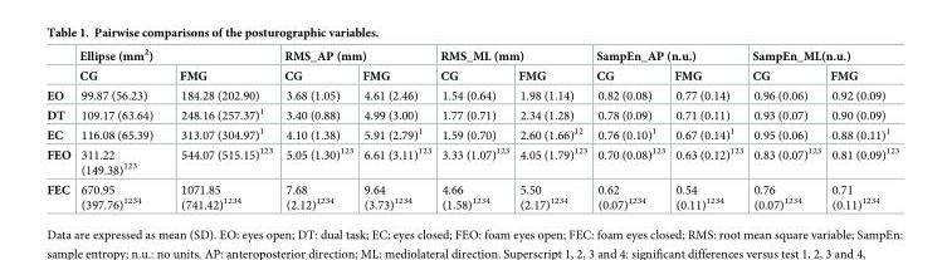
<table><thead><tr><td rowspan="2"></td><td colspan="2">Ellipse (mm<sup>2</sup>)</td><td colspan="2">RMS_AP (mm)</td><td colspan="2">RMS_ML (mm)</td><td colspan="2">SampEn_AP (n.u.)</td><td colspan="2">SampEn_ML(n.u.)</td></tr><tr><td>CG</td><td>FMG</td><td>CG</td><td>FMG</td><td>CG</td><td>FMG</td><td>CG</td><td>FMG</td><td>CG</td><td>FMG</td></tr></thead><tbody><tr><td>EO</td><td>99.87 (56.23)</td><td>184.28 (202.90)</td><td>3.68 (1.05)</td><td>4.61 (2.46)</td><td>1.54 (0.64)</td><td>1.98 (1.14)</td><td>0.82 (0.08)</td><td>0.77 (0.14)</td><td>0.96 (0.06)</td><td>0.92 (0.09)</td></tr><tr><td>DT</td><td>109.17 (63.64)</td><td>248.16 (257.37)<sup>1</sup></td><td>3.40 (0.88)</td><td>4.99 (3.00)</td><td>1.77 (0.71)</td><td>2.34 (1.28)</td><td>0.78 (0.09)</td><td>0.71 (0.11)</td><td>0.93 (0.07)</td><td>0.90 (0.09)</td></tr><tr><td>EC</td><td>116.08 (65.39)</td><td>313.07 (304.97)<sup>1</sup></td><td>4.10 (1.38)</td><td>5.91 (2.79)<sup>1</sup></td><td>1.59 (0.70)</td><td>2.60 (1.66)<sup>12</sup></td><td>0.76 (0.10)<sup>1</sup></td><td>0.67 (0.14)<sup>1</sup></td><td>0.95 (0.06)</td><td>0.88 (0.11)<sup>1</sup></td></tr><tr><td>FEO</td><td>311.22 (149.38)<sup>123</sup></td><td>544.07 (515.15)<sup>123</sup></td><td>5.05 (1.30)<sup>123</sup></td><td>6.61 (3.11)<sup>123</sup></td><td>3.33 (1.07)<sup>123</sup></td><td>4.05 (1.79)<sup>123</sup></td><td>0.70 (0.08)<sup>123</sup></td><td>0.63 (0.12)<sup>123</sup></td><td>0.83 (0.07)<sup>123</sup></td><td>0.81 (0.09)<sup>123</sup></td></tr><tr><td>FEC</td><td>670.95 (397.76)<sup>1234</sup></td><td>1071.85 (741.42)<sup>1234</sup></td><td>7.68 (2.12)<sup>1234</sup></td><td>9.64 (3.73)<sup>1234</sup></td><td>4.66 (1.58)<sup>1234</sup></td><td>5.50 (2.17)<sup>1234</sup></td><td>0.62 (0.07)<sup>1234</sup></td><td>0.54 (0.11)<sup>1234</sup></td><td>0.76 (0.07)<sup>1234</sup></td><td>0.71 (0.11)<sup>1234</sup></td></tr></tbody></table>